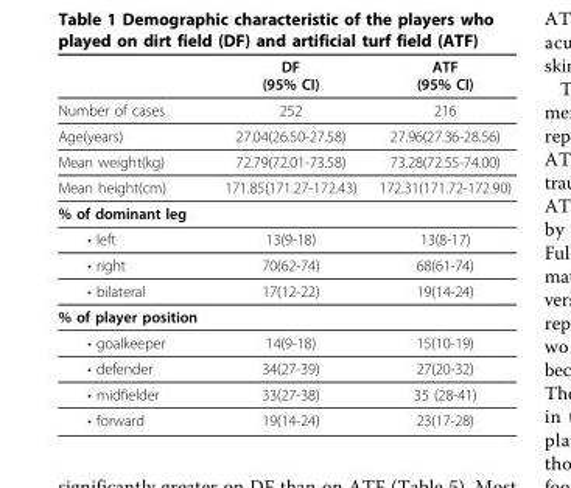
<table><thead><tr><td></td><td>DF (95% CI)</td><td>ATF (95% CI)</td></tr></thead><tbody><tr><td>Number of cases</td><td>252</td><td>216</td></tr><tr><td>Age(years)</td><td>27.04(26.50-27.58)</td><td>27.96(27.36-28.56)</td></tr><tr><td>Mean weight(kg)</td><td>72.79(72.01-73.58)</td><td>73.28(72.55-74.00)</td></tr><tr><td>Mean height(cm)</td><td>171.85(171.27-172.43)</td><td>172.31(171.72-172.90)</td></tr><tr><td colspan="3">% of dominant leg</td></tr><tr><td>• left</td><td>13(9-18)</td><td>13(8-17)</td></tr><tr><td>• right</td><td>70(62-74)</td><td>68(61-74)</td></tr><tr><td>• bilateral</td><td>17(12-22)</td><td>19(14-24)</td></tr><tr><td colspan="3">% of player position</td></tr><tr><td>• goalkeeper</td><td>14(9-18)</td><td>15(10-19)</td></tr><tr><td>• defender</td><td>34(27-39)</td><td>27(20-32)</td></tr><tr><td>• midfielder</td><td>33(27-38)</td><td>35 (28-41)</td></tr><tr><td>• forward</td><td>19(14-24)</td><td>23(17-28)</td></tr></tbody></table>